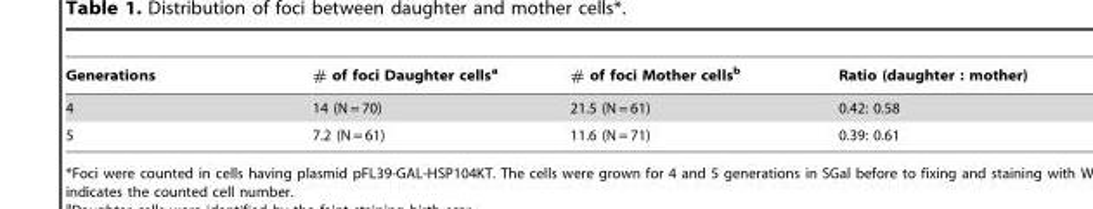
<table><thead><tr><td>Generations</td><td># of foci Daughter cells<sup>a</sup></td><td># of foci Mother cells<sup>b</sup></td><td>Ratio (daughter : mother)</td></tr></thead><tbody><tr><td>4</td><td>14 (N = 70)</td><td>21.5 (N = 61)</td><td>0.42: 0.58</td></tr><tr><td>5</td><td>7.2 (N = 61)</td><td>11.6 (N = 71)</td><td>0.39: 0.61</td></tr></tbody></table>